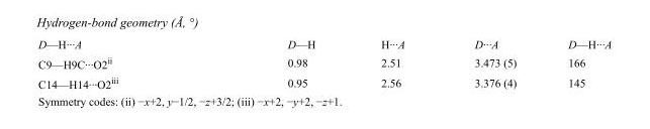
<table><tbody><tr><td>D—H···A</td><td>D—H</td><td>H···A</td><td>D···A</td><td>D—H···A</td></tr><tr><td>C9—H9C···O2<sup>ii</sup></td><td>0.98</td><td>2.51</td><td>3.473 (5)</td><td>166</td></tr><tr><td>C14—H14···O2<sup>iii</sup></td><td>0.95</td><td>2.56</td><td>3.376 (4)</td><td>145</td></tr></tbody></table>